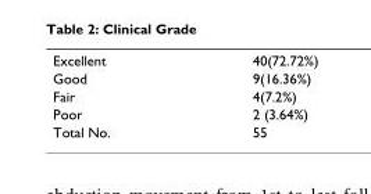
<table><tbody><tr><td>Excellent</td><td>40(72.72%)</td></tr><tr><td>Good</td><td>9(16.36%)</td></tr><tr><td>Fair</td><td>4(7.2%)</td></tr><tr><td>Poor</td><td>2 (3.64%)</td></tr><tr><td>Total No.</td><td>55</td></tr></tbody></table>